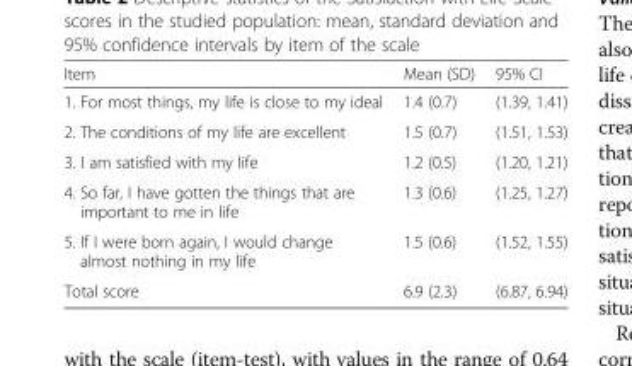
<table><thead><tr><td>Item</td><td>Mean (SD)</td><td>95% CI</td></tr></thead><tbody><tr><td>1. For most things, my life is close to my ideal</td><td>1.4 (0.7)</td><td>(1.39, 1.41)</td></tr><tr><td>2. The conditions of my life are excellent</td><td>1.5 (0.7)</td><td>(1.51, 1.53)</td></tr><tr><td>3. I am satisfied with my life</td><td>1.2 (0.5)</td><td>(1.20, 1.21)</td></tr><tr><td>4. So far, I have gotten the things that are important to me in life</td><td>1.3 (0.6)</td><td>(1.25, 1.27)</td></tr><tr><td>5. If I were born again, I would change almost nothing in my life</td><td>1.5 (0.6)</td><td>(1.52, 1.55)</td></tr><tr><td>Total score</td><td>6.9 (2.3)</td><td>(6.87, 6.94)</td></tr></tbody></table>